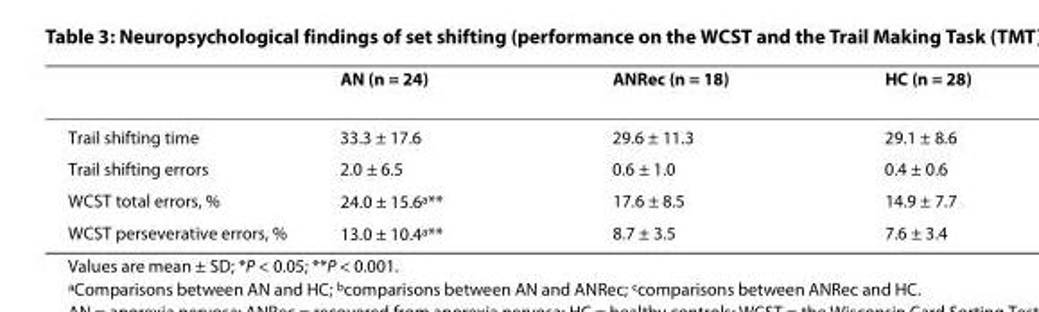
<table><thead><tr><td></td><td>AN (n = 24)</td><td>ANRec (n = 18)</td><td>HC (n = 28)</td></tr></thead><tbody><tr><td>Trail shifting time</td><td>33.3 ± 17.6</td><td>29.6 ± 11.3</td><td>29.1 ± 8.6</td></tr><tr><td>Trail shifting errors</td><td>2.0 ± 6.5</td><td>0.6 ± 1.0</td><td>0.4 ± 0.6</td></tr><tr><td>WCST total errors, %</td><td>24.0 ± 15.6<sup>a</sup>**</td><td>17.6 ± 8.5</td><td>14.9 ± 7.7</td></tr><tr><td>WCST perseverative errors, %</td><td>13.0 ± 10.4<sup>a</sup>**</td><td>8.7 ± 3.5</td><td>7.6 ± 3.4</td></tr></tbody></table>